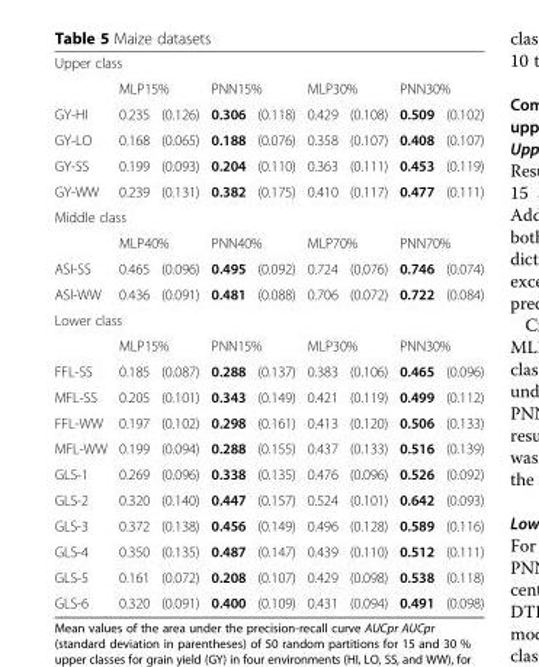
<table><tbody><tr><td colspan="9">Upper class</td></tr><tr><td></td><td colspan="2">MLP15%</td><td colspan="2">PNN15%</td><td colspan="2">MLP30%</td><td colspan="2">PNN30%</td></tr><tr><td>GY-HI</td><td>0.235</td><td>(0.126)</td><td>0.306</td><td>(0.118)</td><td>0.429</td><td>(0.108)</td><td>0.509</td><td>(0.102)</td></tr><tr><td>GY-LO</td><td>0.168</td><td>(0.065)</td><td>0.188</td><td>(0.076)</td><td>0.358</td><td>(0.107)</td><td>0.408</td><td>(0.107)</td></tr><tr><td>GY-SS</td><td>0.199</td><td>(0.093)</td><td>0.204</td><td>(0.110)</td><td>0.363</td><td>(0.111)</td><td>0.453</td><td>(0.119)</td></tr><tr><td>GY-WW</td><td>0.239</td><td>(0.131)</td><td>0.382</td><td>(0.175)</td><td>0.410</td><td>(0.117)</td><td>0.477</td><td>(0.111)</td></tr><tr><td colspan="9">Middle class</td></tr><tr><td></td><td colspan="2">MLP40%</td><td colspan="2">PNN40%</td><td colspan="2">MLP70%</td><td colspan="2">PNN70%</td></tr><tr><td>ASI-SS</td><td>0.465</td><td>(0.096)</td><td>0.495</td><td>(0.092)</td><td>0.724</td><td>(0.076)</td><td>0.746</td><td>(0.074)</td></tr><tr><td>ASI-WW</td><td>0.436</td><td>(0.091)</td><td>0.481</td><td>(0.088)</td><td>0.706</td><td>(0.072)</td><td>0.722</td><td>(0.084)</td></tr><tr><td colspan="9">Lower class</td></tr><tr><td></td><td colspan="2">MLP15%</td><td colspan="2">PNN15%</td><td colspan="2">MLP30%</td><td colspan="2">PNN30%</td></tr><tr><td>FFL-SS</td><td>0.185</td><td>(0.087)</td><td>0.288</td><td>(0.137)</td><td>0.383</td><td>(0.106)</td><td>0.465</td><td>(0.096)</td></tr><tr><td>MFL-SS</td><td>0.205</td><td>(0.101)</td><td>0.343</td><td>(0.149)</td><td>0.421</td><td>(0.119)</td><td>0.499</td><td>(0.112)</td></tr><tr><td>FFL-WW</td><td>0.197</td><td>(0.102)</td><td>0.298</td><td>(0.161)</td><td>0.413</td><td>(0.120)</td><td>0.506</td><td>(0.133)</td></tr><tr><td>MFL-WW</td><td>0.199</td><td>(0.094)</td><td>0.288</td><td>(0.155)</td><td>0.437</td><td>(0.133)</td><td>0.516</td><td>(0.139)</td></tr><tr><td>GLS-1</td><td>0.269</td><td>(0.096)</td><td>0.338</td><td>(0.135)</td><td>0.476</td><td>(0.096)</td><td>0.526</td><td>(0.092)</td></tr><tr><td>GLS-2</td><td>0.320</td><td>(0.140)</td><td>0.447</td><td>(0.157)</td><td>0.524</td><td>(0.101)</td><td>0.642</td><td>(0.093)</td></tr><tr><td>GLS-3</td><td>0.372</td><td>(0.138)</td><td>0.456</td><td>(0.149)</td><td>0.496</td><td>(0.128)</td><td>0.589</td><td>(0.116)</td></tr><tr><td>GLS-4</td><td>0.350</td><td>(0.135)</td><td>0.487</td><td>(0.147)</td><td>0.439</td><td>(0.110)</td><td>0.512</td><td>(0.111)</td></tr><tr><td>GLS-5</td><td>0.161</td><td>(0.072)</td><td>0.208</td><td>(0.107)</td><td>0.429</td><td>(0.098)</td><td>0.538</td><td>(0.118)</td></tr><tr><td>GLS-6</td><td>0.320</td><td>(0.091)</td><td>0.400</td><td>(0.109)</td><td>0.431</td><td>(0.094)</td><td>0.491</td><td>(0.098)</td></tr></tbody></table>